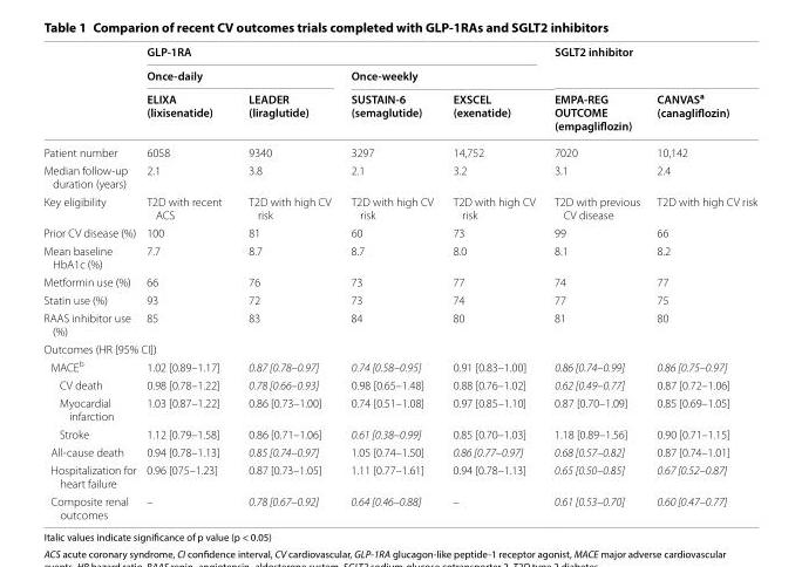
<table><thead><tr><td rowspan="3"></td><td colspan="4">GLP-1RA</td><td rowspan="2" colspan="2">SGLT2 inhibitor</td></tr><tr><td colspan="2">Once-daily</td><td colspan="2">Once-weekly</td></tr><tr><td>ELIXA (lixisenatide)</td><td>LEADER (liraglutide)</td><td>SUSTAIN-6 (semaglutide)</td><td>EXSCEL (exenatide)</td><td>EMPA-REG OUTCOME (empagliflozin)</td><td>CANVAS<sup>a</sup> (canagliflozin)</td></tr></thead><tbody><tr><td>Patient number</td><td>6058</td><td>9340</td><td>3297</td><td>14,752</td><td>7020</td><td>10,142</td></tr><tr><td>Median follow-up duration (years)</td><td>2.1</td><td>3.8</td><td>2.1</td><td>3.2</td><td>3.1</td><td>2.4</td></tr><tr><td>Key eligibility</td><td>T2D with recent ACS</td><td>T2D with high CV risk</td><td>T2D with high CV risk</td><td>T2D with high CV risk</td><td>T2D with previous CV disease</td><td>T2D with high CV risk</td></tr><tr><td>Prior CV disease (%)</td><td>100</td><td>81</td><td>60</td><td>73</td><td>99</td><td>66</td></tr><tr><td>Mean baseline HbA1c (%)</td><td>7.7</td><td>8.7</td><td>8.7</td><td>8.0</td><td>8.1</td><td>8.2</td></tr><tr><td>Metformin use (%)</td><td>66</td><td>76</td><td>73</td><td>77</td><td>74</td><td>77</td></tr><tr><td>Statin use (%)</td><td>93</td><td>72</td><td>73</td><td>74</td><td>77</td><td>75</td></tr><tr><td>RAAS inhibitor use (%)</td><td>85</td><td>83</td><td>84</td><td>80</td><td>81</td><td>80</td></tr><tr><td colspan="7">Outcomes (HR [95% CI])</td></tr><tr><td>MACE<sup>b</sup></td><td>1.02 [0.89–1.17]</td><td>0.87 [0.78–0.97]</td><td>0.74 [0.58–0.95]</td><td>0.91 [0.83–1.00]</td><td>0.86 [0.74–0.99]</td><td>0.86 [0.75–0.97]</td></tr><tr><td>CV death</td><td>0.98 [0.78–1.22]</td><td>0.78 [0.66–0.93]</td><td>0.98 [0.65–1.48]</td><td>0.88 [0.76–1.02]</td><td>0.62 [0.49–0.77]</td><td>0.87 [0.72–1.06]</td></tr><tr><td>Myocardial infarction</td><td>1.03 [0.87–1.22]</td><td>0.86 [0.73–1.00]</td><td>0.74 [0.51–1.08]</td><td>0.97 [0.85–1.10]</td><td>0.87 [0.70–1.09]</td><td>0.85 [0.69–1.05]</td></tr><tr><td>Stroke</td><td>1.12 [0.79–1.58]</td><td>0.86 [0.71–1.06]</td><td>0.61 [0.38–0.99]</td><td>0.85 [0.70–1.03]</td><td>1.18 [0.89–1.56]</td><td>0.90 [0.71–1.15]</td></tr><tr><td>All-cause death</td><td>0.94 [0.78–1.13]</td><td>0.85 [0.74–0.97]</td><td>1.05 [0.74–1.50]</td><td>0.86 [0.77–0.97]</td><td>0.68 [0.57–0.82]</td><td>0.87 [0.74–1.01]</td></tr><tr><td>Hospitalization for heart failure</td><td>0.96 [075–1.23]</td><td>0.87 [0.73–1.05]</td><td>1.11 [0.77–1.61]</td><td>0.94 [0.78–1.13]</td><td>0.65 [0.50–0.85]</td><td>0.67 [0.52–0.87]</td></tr><tr><td>Composite renal outcomes</td><td>–</td><td>0.78 [0.67–0.92]</td><td>0.64 [0.46–0.88]</td><td>–</td><td>0.61 [0.53–0.70]</td><td>0.60 [0.47–0.77]</td></tr></tbody></table>